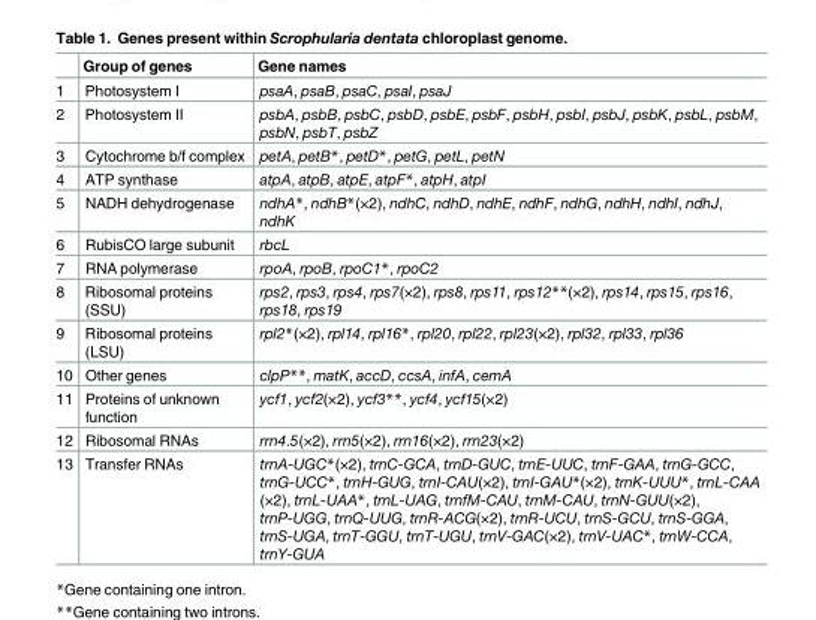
<table><thead><tr><td></td><td>Group of genes</td><td>Gene names</td></tr></thead><tbody><tr><td>1</td><td>Photosystem I</td><td>psaA, psaB, psaC, psaI, psaJ</td></tr><tr><td>2</td><td>Photosystem II</td><td>psbA, psbB, psbC, psbD, psbE, psbF, psbH, psbI, psbJ, psbK, psbL, psbM, psbN, psbT, psbZ</td></tr><tr><td>3</td><td>Cytochrome b/f complex</td><td>petA, petB*, petD*, petG, petL, petN</td></tr><tr><td>4</td><td>ATP synthase</td><td>atpA, atpB, atpE, atpF*, atpH, atpI</td></tr><tr><td>5</td><td>NADH dehydrogenase</td><td>ndhA*, ndhB*(×2), ndhC, ndhD, ndhE, ndhF, ndhG, ndhH, ndhI, ndhJ, ndhK</td></tr><tr><td>6</td><td>RubisCO large subunit</td><td>rbcL</td></tr><tr><td>7</td><td>RNA polymerase</td><td>rpoA, rpoB, rpoC1*, rpoC2</td></tr><tr><td>8</td><td>Ribosomal proteins (SSU)</td><td>rps2, rps3, rps4, rps7(×2), rps8, rps11, rps12**(×2), rps14, rps15, rps16, rps18, rps19</td></tr><tr><td>9</td><td>Ribosomal proteins (LSU)</td><td>rpl2*(×2), rpl14, rpl16*, rpl20, rpl22, rpl23(×2), rpl32, rpl33, rpl36</td></tr><tr><td>10</td><td>Other genes</td><td>clpP**, matK, accD, ccsA, infA, cemA</td></tr><tr><td>11</td><td>Proteins of unknown function</td><td>ycf1, ycf2(×2), ycf3**, ycf4, ycf15(×2)</td></tr><tr><td>12</td><td>Ribosomal RNAs</td><td>rrn4.5(×2), rrn5(×2), rrn16(×2), rrn23(×2)</td></tr><tr><td>13</td><td>Transfer RNAs</td><td>trnA-UGC*(×2), trnC-GCA, trnD-GUC, trnE-UUC, trnF-GAA, trnG-GCC, trnG-UCC*, trnH-GUG, trnI-CAU(×2), trnI-GAU*(×2), trnK-UUU*, trnL-CAA (×2), trnL-UAA*, trnL-UAG, trnfM-CAU, trnM-CAU, trnN-GUU(×2), trnP-UGG, trnQ-UUG, trnR-ACG(×2), trnR-UCU, trnS-GCU, trnS-GGA, trnS-UGA, trnT-GGU, trnT-UGU, trnV-GAC(×2), trnV-UAC*, trnW-CCA, trnY-GUA</td></tr></tbody></table>